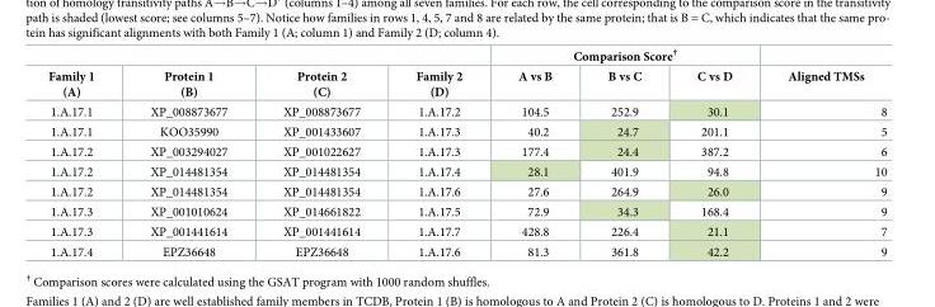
<table><thead><tr><td rowspan="2">Family 1 (A)</td><td rowspan="2">Protein 1 (B)</td><td rowspan="2">Protein 2 (C)</td><td rowspan="2">Family 2 (D)</td><td colspan="3">Comparison Score<sup>†</sup></td><td rowspan="2">Aligned TMSs</td></tr><tr><td>A vs B</td><td>B vs C</td><td>C vs D</td></tr></thead><tbody><tr><td>1.A.17.1</td><td>XP_008873677</td><td>XP_008873677</td><td>1.A.17.2</td><td>104.5</td><td>252.9</td><td>30.1</td><td>8</td></tr><tr><td>1.A.17.1</td><td>KOO35990</td><td>XP_001433607</td><td>1.A.17.3</td><td>40.2</td><td>24.7</td><td>201.1</td><td>5</td></tr><tr><td>1.A.17.2</td><td>XP_003294027</td><td>XP_001022627</td><td>1.A.17.3</td><td>177.4</td><td>24.4</td><td>387.2</td><td>6</td></tr><tr><td>1.A.17.2</td><td>XP_014481354</td><td>XP_014481354</td><td>1.A.17.4</td><td>28.1</td><td>401.9</td><td>94.8</td><td>10</td></tr><tr><td>1.A.17.2</td><td>XP_014481354</td><td>XP_014481354</td><td>1.A.17.6</td><td>27.6</td><td>264.9</td><td>26.0</td><td>9</td></tr><tr><td>1.A.17.3</td><td>XP_001010624</td><td>XP_014661822</td><td>1.A.17.5</td><td>72.9</td><td>34.3</td><td>168.4</td><td>9</td></tr><tr><td>1.A.17.3</td><td>XP_001441614</td><td>XP_001441614</td><td>1.A.17.7</td><td>428.8</td><td>226.4</td><td>21.1</td><td>7</td></tr><tr><td>1.A.17.4</td><td>EPZ36648</td><td>EPZ36648</td><td>1.A.17.6</td><td>81.3</td><td>361.8</td><td>42.2</td><td>9</td></tr></tbody></table>